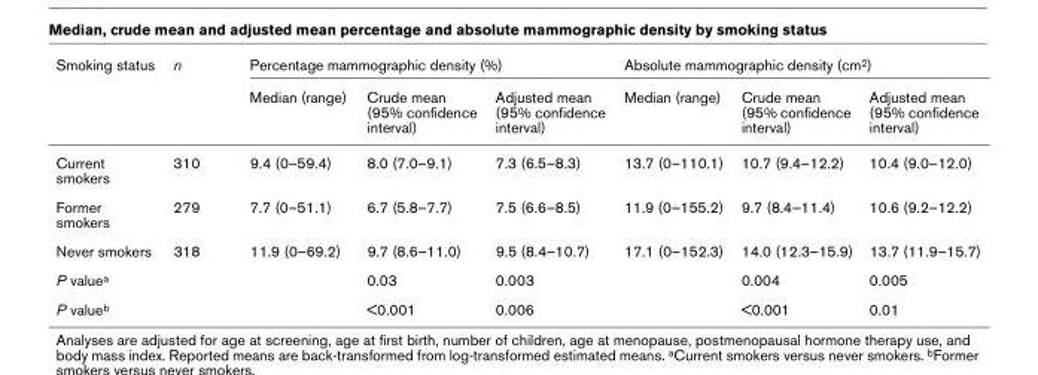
<table><thead><tr><td rowspan="2">Smoking status</td><td rowspan="2">n</td><td colspan="3">Percentage mammographic density (%)</td><td colspan="3">Absolute mammographic density (cm<sup>2</sup>)</td></tr><tr><td>Median (range)</td><td>Crude mean (95% confidence interval)</td><td>Adjusted mean (95% confidence interval)</td><td>Median (range)</td><td>Crude mean (95% confidence interval)</td><td>Adjusted mean (95% confidence interval)</td></tr></thead><tbody><tr><td>Current smokers</td><td>310</td><td>9.4 (0–59.4)</td><td>8.0 (7.0–9.1)</td><td>7.3 (6.5–8.3)</td><td>13.7 (0–110.1)</td><td>10.7 (9.4–12.2)</td><td>10.4 (9.0–12.0)</td></tr><tr><td>Former smokers</td><td>279</td><td>7.7 (0–51.1)</td><td>6.7 (5.8–7.7)</td><td>7.5 (6.6–8.5)</td><td>11.9 (0–155.2)</td><td>9.7 (8.4–11.4)</td><td>10.6 (9.2–12.2)</td></tr><tr><td>Never smokers</td><td>318</td><td>11.9 (0–69.2)</td><td>9.7 (8.6–11.0)</td><td>9.5 (8.4–10.7)</td><td>17.1 (0–152.3)</td><td>14.0 (12.3–15.9)</td><td>13.7 (11.9–15.7)</td></tr><tr><td>P value<sup>a</sup></td><td></td><td></td><td>0.03</td><td>0.003</td><td></td><td>0.004</td><td>0.005</td></tr><tr><td>P value<sup>b</sup></td><td></td><td></td><td>&lt;0.001</td><td>0.006</td><td></td><td>&lt;0.001</td><td>0.01</td></tr></tbody></table>